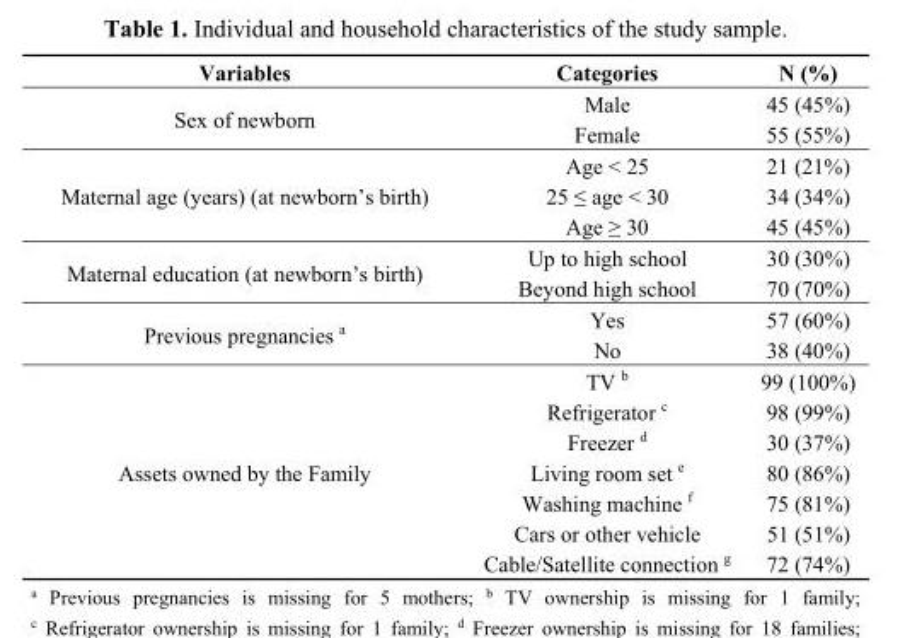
<table><thead><tr><td>Variables</td><td>Categories</td><td>N (%)</td></tr></thead><tbody><tr><td rowspan="2">Sex of newborn</td><td>Male</td><td>45 (45%)</td></tr><tr><td>Female</td><td>55 (55%)</td></tr><tr><td rowspan="3">Maternal age (years) (at newborn’s birth)</td><td>Age &lt; 25</td><td>21 (21%)</td></tr><tr><td>25 ≤ age &lt; 30</td><td>34 (34%)</td></tr><tr><td>Age ≥ 30</td><td>45 (45%)</td></tr><tr><td rowspan="2">Maternal education (at newborn’s birth)</td><td>Up to high school</td><td>30 (30%)</td></tr><tr><td>Beyond high school</td><td>70 (70%)</td></tr><tr><td rowspan="2">Previous pregnancies <sup>a</sup></td><td>Yes</td><td>57 (60%)</td></tr><tr><td>No</td><td>38 (40%)</td></tr><tr><td rowspan="7">Assets owned by the Family</td><td>TV <sup>b</sup></td><td>99 (100%)</td></tr><tr><td>Refrigerator <sup>c</sup></td><td>98 (99%)</td></tr><tr><td>Freezer <sup>d</sup></td><td>30 (37%)</td></tr><tr><td>Living room set <sup>e</sup></td><td>80 (86%)</td></tr><tr><td>Washing machine <sup>f</sup></td><td>75 (81%)</td></tr><tr><td>Cars or other vehicle</td><td>51 (51%)</td></tr><tr><td>Cable/Satellite connection <sup>g</sup></td><td>72 (74%)</td></tr></tbody></table>